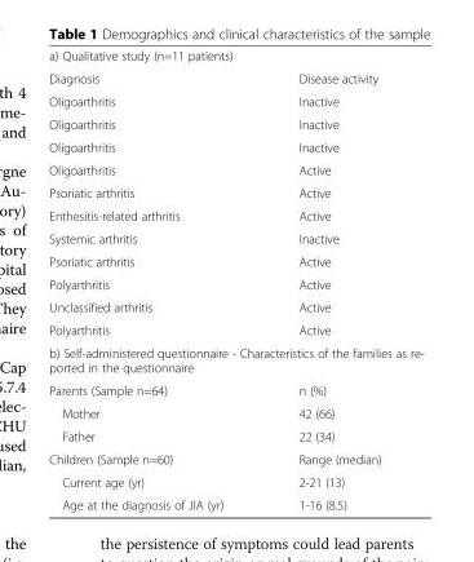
<table><tbody><tr><td colspan="2">a) Qualitative study (n=11 patients)</td></tr><tr><td>Diagnosis</td><td>Disease activity</td></tr><tr><td>Oligoarthritis</td><td>Inactive</td></tr><tr><td>Oligoarthritis</td><td>Inactive</td></tr><tr><td>Oligoarthritis</td><td>Inactive</td></tr><tr><td>Oligoarthritis</td><td>Active</td></tr><tr><td>Psoriatic arthritis</td><td>Active</td></tr><tr><td>Enthesitis-related arthritis</td><td>Active</td></tr><tr><td>Systemic arthritis</td><td>Inactive</td></tr><tr><td>Psoriatic arthritis</td><td>Active</td></tr><tr><td>Polyarthritis</td><td>Active</td></tr><tr><td>Unclassified arthritis</td><td>Active</td></tr><tr><td>Polyarthritis</td><td>Active</td></tr><tr><td colspan="2">b) Self-administered questionnaire - Characteristics of the families as re- ported in the questionnaire</td></tr><tr><td>Parents (Sample n=64)</td><td>n (%)</td></tr><tr><td>Mother</td><td>42 (66)</td></tr><tr><td>Father</td><td>22 (34)</td></tr><tr><td>Children (Sample n=60)</td><td>Range (median)</td></tr><tr><td>Current age (yr)</td><td>2-21 (13)</td></tr><tr><td>Age at the diagnosis of JIA (yr)</td><td>1-16 (8.5)</td></tr></tbody></table>